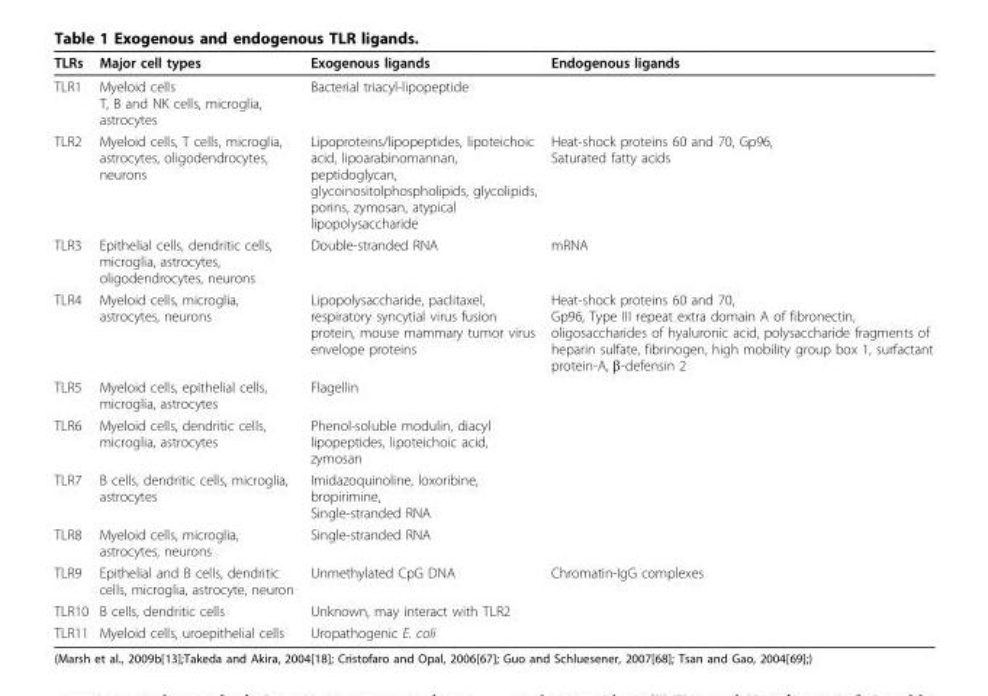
<table><thead><tr><td>TLRs</td><td>Major cell types</td><td>Exogenous ligands</td><td>Endogenous ligands</td></tr></thead><tbody><tr><td>TLR1</td><td>Myeloid cells T, B and NK cells, microglia, astrocytes</td><td>Bacterial triacyl-lipopeptide</td><td></td></tr><tr><td>TLR2</td><td>Myeloid cells, T cells, microglia, astrocytes, oligodendrocytes, neurons</td><td>Lipoproteins/lipopeptides, lipoteichoic acid, lipoarabinomannan, peptidoglycan, glycoinositolphospholipids, glycolipids, porins, zymosan, atypical lipopolysaccharide</td><td>Heat-shock proteins 60 and 70, Gp96, Saturated fatty acids</td></tr><tr><td>TLR3</td><td>Epithelial cells, dendritic cells, microglia, astrocytes, oligodendrocytes, neurons</td><td>Double-stranded RNA</td><td>mRNA</td></tr><tr><td>TLR4</td><td>Myeloid cells, microglia, astrocytes, neurons</td><td>Lipopolysaccharide, paclitaxel, respiratory syncytial virus fusion protein, mouse mammary tumor virus envelope proteins</td><td>Heat-shock proteins 60 and 70, Gp96, Type III repeat extra domain A of fibronectin, oligosaccharides of hyaluronic acid, polysaccharide fragments of heparin sulfate, fibrinogen, high mobility group box 1, surfactant protein-A, β-defensin 2</td></tr><tr><td>TLR5</td><td>Myeloid cells, epithelial cells, microglia, astrocytes</td><td>Flagellin</td><td></td></tr><tr><td>TLR6</td><td>Myeloid cells, dendritic cells, microglia, astrocytes</td><td>Phenol-soluble modulin, diacyl lipopeptides, lipoteichoic acid, zymosan</td><td></td></tr><tr><td>TLR7</td><td>B cells, dendritic cells, microglia, astrocytes</td><td>Imidazoquinoline, loxoribine, bropirimine, Single-stranded RNA</td><td></td></tr><tr><td>TLR8</td><td>Myeloid cells, microglia, astrocytes, neurons</td><td>Single-stranded RNA</td><td></td></tr><tr><td>TLR9</td><td>Epithelial and B cells, dendritic cells, microglia, astrocyte, neuron</td><td>Unmethylated CpG DNA</td><td>Chromatin-IgG complexes</td></tr><tr><td>TLR10</td><td>B cells, dendritic cells</td><td>Unknown, may interact with TLR2</td><td></td></tr><tr><td>TLR11</td><td>Myeloid cells, uroepithelial cells</td><td>Uropathogenic E. coli</td><td></td></tr></tbody></table>